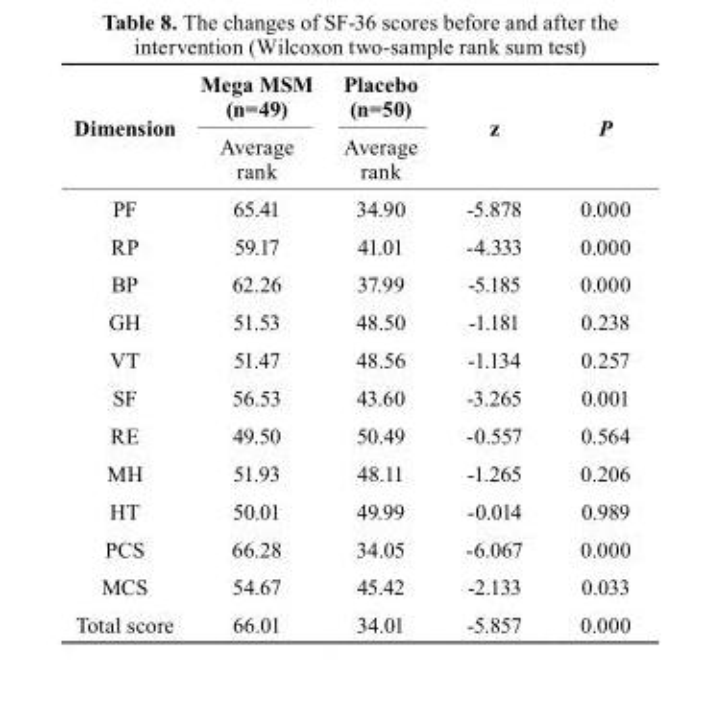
<table><thead><tr><td rowspan="2">Dimension</td><td rowspan="2">Mega MsM (n=49) Average rank</td><td rowspan="2">Placebo (n=50) Average rank</td><td rowspan="2">z</td><td rowspan="2">P</td></tr><tr></tr></thead><tbody><tr><td>PF</td><td>65.41</td><td>34.90</td><td>-5.878</td><td>0.000</td></tr><tr><td>RP</td><td>59.17</td><td>41.01</td><td>-4.333</td><td>0.000</td></tr><tr><td>BP</td><td>62.26</td><td>37.99</td><td>-5.185</td><td>0.000</td></tr><tr><td>GH</td><td>51.53</td><td>48.50</td><td>-1.181</td><td>0.238</td></tr><tr><td>VT</td><td>51.47</td><td>48.56</td><td>-1.134</td><td>0.257</td></tr><tr><td>SF</td><td>56.53</td><td>43.60</td><td>-3.265</td><td>0.001</td></tr><tr><td>RE</td><td>49.50</td><td>50.49</td><td>-0.557</td><td>0.564</td></tr><tr><td>MH</td><td>51.93</td><td>48.11</td><td>-1.265</td><td>0.206</td></tr><tr><td>HT</td><td>50.01</td><td>49.99</td><td>-0.014</td><td>0.989</td></tr><tr><td>PCS</td><td>66.28</td><td>34.05</td><td>-6.067</td><td>0.000</td></tr><tr><td>MCS</td><td>54.67</td><td>45.42</td><td>-2.133</td><td>0.033</td></tr><tr><td>Total score</td><td>66.01</td><td>34.01</td><td>-5.857</td><td>0.000</td></tr></tbody></table>